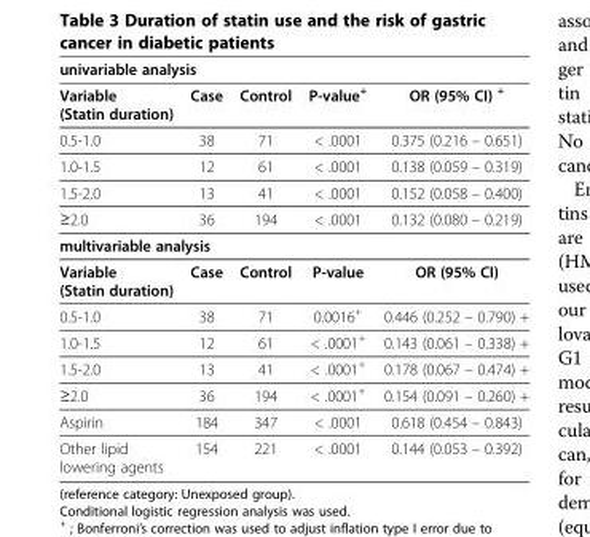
<table><thead><tr><td colspan="5">univariable analysis</td></tr><tr><td>Variable (Statin duration)</td><td>Case</td><td>Control</td><td>P-value<sup>+</sup></td><td>OR (95% CI) <sup>+</sup></td></tr></thead><tbody><tr><td>0.5-1.0</td><td>38</td><td>71</td><td>&lt; .0001</td><td>0.375 (0.216 – 0.651)</td></tr><tr><td>1.0-1.5</td><td>12</td><td>61</td><td>&lt; .0001</td><td>0.138 (0.059 – 0.319)</td></tr><tr><td>1.5-2.0</td><td>13</td><td>41</td><td>&lt; .0001</td><td>0.152 (0.058 – 0.400)</td></tr><tr><td>≥2.0</td><td>36</td><td>194</td><td>&lt; .0001</td><td>0.132 (0.080 – 0.219)</td></tr><tr><td colspan="5">multivariable analysis</td></tr><tr><td>Variable (Statin duration)</td><td>Case</td><td>Control</td><td>P-value</td><td>OR (95% CI)</td></tr><tr><td>0.5-1.0</td><td>38</td><td>71</td><td>0.0016<sup>+</sup></td><td>0.446 (0.252 – 0.790) +</td></tr><tr><td>1.0-1.5</td><td>12</td><td>61</td><td>&lt; .0001<sup>+</sup></td><td>0.143 (0.061 – 0.338) +</td></tr><tr><td>1.5-2.0</td><td>13</td><td>41</td><td>&lt; .0001<sup>+</sup></td><td>0.178 (0.067 – 0.474) +</td></tr><tr><td>≥2.0</td><td>36</td><td>194</td><td>&lt; .0001<sup>+</sup></td><td>0.154 (0.091 – 0.260) +</td></tr><tr><td>Aspirin</td><td>184</td><td>347</td><td>&lt; .0001</td><td>0.618 (0.454 – 0.843)</td></tr><tr><td>Other lipid lowering agents</td><td>154</td><td>221</td><td>&lt; .0001</td><td>0.144 (0.053 – 0.392)</td></tr></tbody></table>